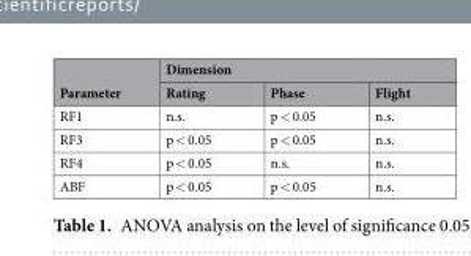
<table><thead><tr><td rowspan="2">Parameter</td><td colspan="3">Dimension</td></tr><tr><td>Rating</td><td>Phase</td><td>Flight</td></tr></thead><tbody><tr><td>RF1</td><td>n.s.</td><td>p &lt; 0.05</td><td>n.s.</td></tr><tr><td>RF3</td><td>p &lt; 0.05</td><td>p &lt; 0.05</td><td>n.s.</td></tr><tr><td>RF4</td><td>p &lt; 0.05</td><td>n.s.</td><td>n.s.</td></tr><tr><td>ABF</td><td>p &lt; 0.05</td><td>p &lt; 0.05</td><td>n.s.</td></tr></tbody></table>